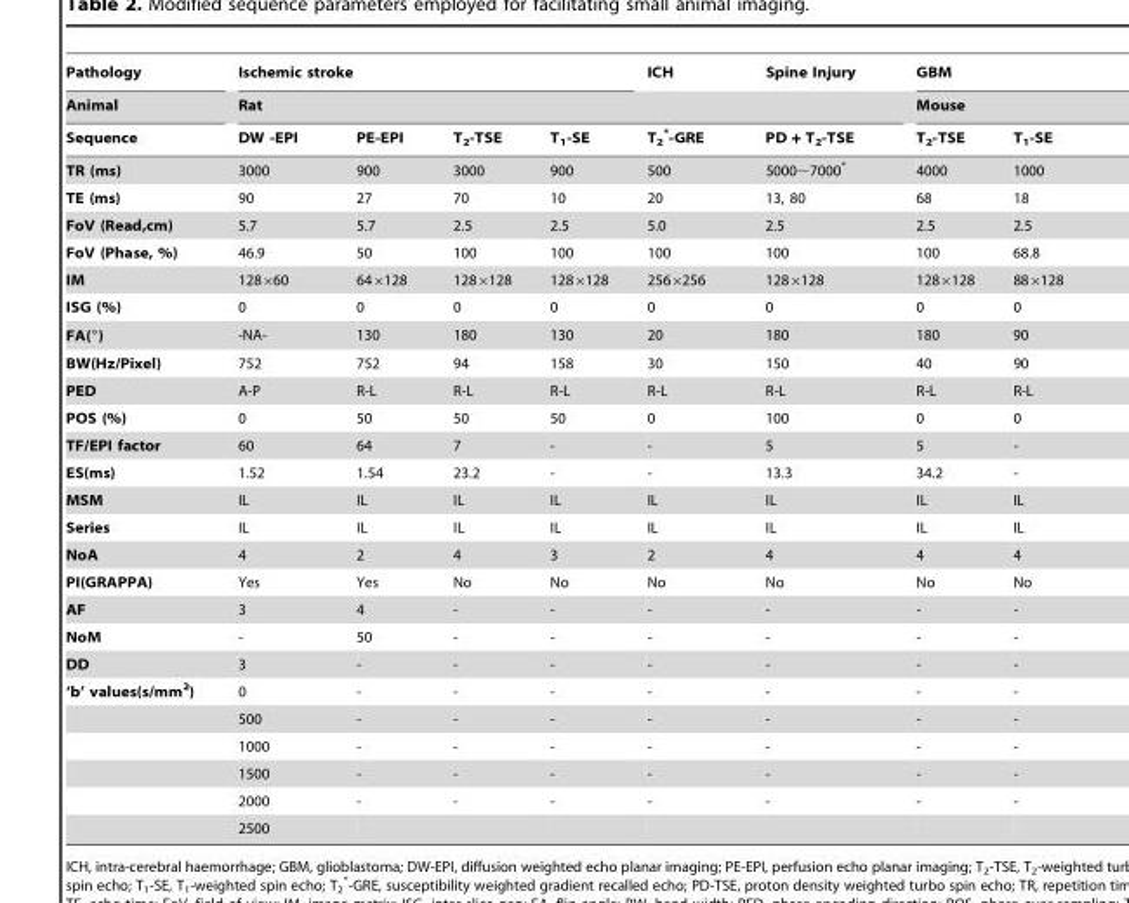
<table><thead><tr><td rowspan="3">Pathology Animal Sequence</td><td colspan="4">Ischemic stroke</td><td>ICH</td><td>Spine Injury</td><td rowspan="2" colspan="2">GBM Mouse</td></tr><tr><td colspan="6">Rat</td></tr><tr><td>DW -EPI</td><td>PE-EPI</td><td>T<sub>2</sub>-TSE</td><td>T<sub>1</sub>-SE</td><td>T<sub>2</sub> *-GRE</td><td>PD + T<sub>2</sub>-TSE</td><td>T<sub>2</sub>-TSE</td><td>T<sub>1</sub>-SE</td></tr></thead><tbody><tr><td>TR (ms)</td><td>3000</td><td>900</td><td>3000</td><td>900</td><td>500</td><td>5000∼7000*</td><td>4000</td><td>1000</td></tr><tr><td>TE (ms)</td><td>90</td><td>27</td><td>70</td><td>10</td><td>20</td><td>13, 80</td><td>68</td><td>18</td></tr><tr><td>FoV (Read,cm)</td><td>5.7</td><td>5.7</td><td>2.5</td><td>2.5</td><td>5.0</td><td>2.5</td><td>2.5</td><td>2.5</td></tr><tr><td>FoV (Phase, %)</td><td>46.9</td><td>50</td><td>100</td><td>100</td><td>100</td><td>100</td><td>100</td><td>68.8</td></tr><tr><td>IM</td><td>128×60</td><td>64×128</td><td>128×128</td><td>128×128</td><td>256×256</td><td>128×128</td><td>128×128</td><td>88×128</td></tr><tr><td>ISG (%)</td><td>0</td><td>0</td><td>0</td><td>0</td><td>0</td><td>0</td><td>0</td><td>0</td></tr><tr><td>FA(°)</td><td>-NA-</td><td>130</td><td>180</td><td>130</td><td>20</td><td>180</td><td>180</td><td>90</td></tr><tr><td>BW(Hz/Pixel)</td><td>752</td><td>752</td><td>94</td><td>158</td><td>30</td><td>150</td><td>40</td><td>90</td></tr><tr><td>PED</td><td>A-P</td><td>R-L</td><td>R-L</td><td>R-L</td><td>R-L</td><td>R-L</td><td>R-L</td><td>R-L</td></tr><tr><td>POS (%)</td><td>0</td><td>50</td><td>50</td><td>50</td><td>0</td><td>100</td><td>0</td><td>0</td></tr><tr><td>TF/EPI factor</td><td>60</td><td>64</td><td>7</td><td>-</td><td>-</td><td>5</td><td>5</td><td>-</td></tr><tr><td>ES(ms)</td><td>1.52</td><td>1.54</td><td>23.2</td><td>-</td><td>-</td><td>13.3</td><td>34.2</td><td>-</td></tr><tr><td>MSM</td><td>IL</td><td>IL</td><td>IL</td><td>IL</td><td>IL</td><td>IL</td><td>IL</td><td>IL</td></tr><tr><td>Series</td><td>IL</td><td>IL</td><td>IL</td><td>IL</td><td>IL</td><td>IL</td><td>IL</td><td>IL</td></tr><tr><td>NoA</td><td>4</td><td>2</td><td>4</td><td>3</td><td>2</td><td>4</td><td>4</td><td>4</td></tr><tr><td>PI(GRAPPA)</td><td>Yes</td><td>Yes</td><td>No</td><td>No</td><td>No</td><td>No</td><td>No</td><td>No</td></tr><tr><td>AF</td><td>3</td><td>4</td><td>-</td><td>-</td><td>-</td><td>-</td><td>-</td><td>-</td></tr><tr><td>NoM</td><td>-</td><td>50</td><td>-</td><td>-</td><td>-</td><td>-</td><td>-</td><td>-</td></tr><tr><td>DD</td><td>3</td><td>-</td><td>-</td><td>-</td><td>-</td><td>-</td><td>-</td><td>-</td></tr><tr><td rowspan="6">‘b’ values(s/mm<sup>2</sup>)</td><td>0</td><td>-</td><td>-</td><td>-</td><td>-</td><td>-</td><td>-</td><td>-</td></tr><tr><td>500</td><td>-</td><td>-</td><td>-</td><td>-</td><td>-</td><td>-</td><td>-</td></tr><tr><td>1000</td><td>-</td><td>-</td><td>-</td><td>-</td><td>-</td><td>-</td><td>-</td></tr><tr><td>1500</td><td>-</td><td>-</td><td>-</td><td>-</td><td>-</td><td>-</td><td>-</td></tr><tr><td>2000</td><td>-</td><td>-</td><td>-</td><td>-</td><td>-</td><td>-</td><td>-</td></tr><tr><td>2500</td><td></td><td></td><td></td><td></td><td></td><td></td><td></td></tr></tbody></table>